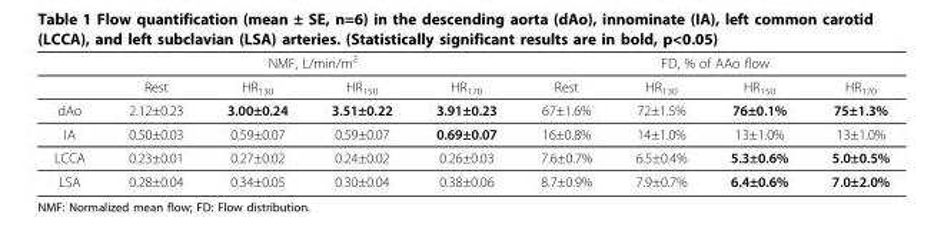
<table><thead><tr><td rowspan="2"></td><td colspan="4">NMF, L/min/m<sup>2</sup></td><td colspan="4">FD, % of AAo flow</td></tr><tr><td>Rest</td><td>HR<sub>130</sub></td><td>HR<sub>150</sub></td><td>HR<sub>170</sub></td><td>Rest</td><td>HR<sub>130</sub></td><td>HR<sub>150</sub></td><td>HR<sub>170</sub></td></tr></thead><tbody><tr><td>dAo</td><td>2.12±0.23</td><td>3.00±0.24</td><td>3.51±0.22</td><td>3.91±0.23</td><td>67±1.6%</td><td>72±1.5%</td><td>76±0.1%</td><td>75±1.3%</td></tr><tr><td>IA</td><td>0.50±0.03</td><td>0.59±0.07</td><td>0.59±0.07</td><td>0.69±0.07</td><td>16±0.8%</td><td>14±1.0%</td><td>13±1.0%</td><td>13±1.0%</td></tr><tr><td>LCCA</td><td>0.23±0.01</td><td>0.27±0.02</td><td>0.24±0.02</td><td>0.26±0.03</td><td>7.6±0.7%</td><td>6.5±0.4%</td><td>5.3±0.6%</td><td>5.0±0.5%</td></tr><tr><td>LSA</td><td>0.28±0.04</td><td>0.34±0.05</td><td>0.30±0.04</td><td>0.38±0.06</td><td>8.7±0.9%</td><td>7.9±0.7%</td><td>6.4±0.6%</td><td>7.0±2.0%</td></tr></tbody></table>